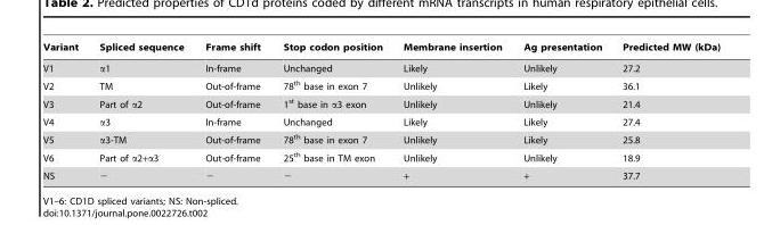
<table><thead><tr><td>Variant</td><td>Spliced sequence</td><td>Frame shift</td><td>Stop codon position</td><td>Membrane insertion</td><td>Ag presentation</td><td>Predicted MW (kDa)</td></tr></thead><tbody><tr><td>V1</td><td>α1</td><td>In-frame</td><td>Unchanged</td><td>Likely</td><td>Unlikely</td><td>27.2</td></tr><tr><td>V2</td><td>TM</td><td>Out-of-frame</td><td>78<sup>th</sup> base in exon 7</td><td>Unlikely</td><td>Likely</td><td>36.1</td></tr><tr><td>V3</td><td>Part of α2</td><td>Out-of-frame</td><td>1<sup>st</sup> base in α3 exon</td><td>Unlikely</td><td>Unlikely</td><td>21.4</td></tr><tr><td>V4</td><td>α3</td><td>In-frame</td><td>Unchanged</td><td>Likely</td><td>Likely</td><td>27.4</td></tr><tr><td>V5</td><td>α3-TM</td><td>Out-of-frame</td><td>78<sup>th</sup> base in exon 7</td><td>Unlikely</td><td>Likely</td><td>25.8</td></tr><tr><td>V6</td><td>Part of α2+α3</td><td>Out-of-frame</td><td>25<sup>th</sup> base in TM exon</td><td>Unlikely</td><td>Unlikely</td><td>18.9</td></tr><tr><td>NS</td><td>−</td><td>−</td><td>−</td><td>+</td><td>+</td><td>37.7</td></tr></tbody></table>